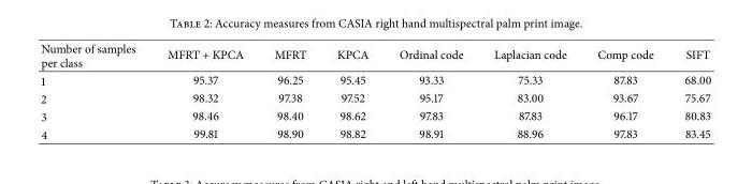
<table><thead><tr><td>Number of samples per class</td><td>MFRT + KPCA</td><td>MFRT</td><td>KPCA</td><td>Ordinal code</td><td>Laplacian code</td><td>Comp code</td><td>SIFT</td></tr></thead><tbody><tr><td>1</td><td>95.37</td><td>96.25</td><td>95.45</td><td>93.33</td><td>75.33</td><td>87.83</td><td>68.00</td></tr><tr><td>2</td><td>98.32</td><td>97.38</td><td>97.52</td><td>95.17</td><td>83.00</td><td>93.67</td><td>75.67</td></tr><tr><td>3</td><td>98.46</td><td>98.40</td><td>98.62</td><td>97.83</td><td>87.83</td><td>96.17</td><td>80.83</td></tr><tr><td>4</td><td>99.81</td><td>98.90</td><td>98.82</td><td>98.91</td><td>88.96</td><td>97.83</td><td>83.45</td></tr></tbody></table>